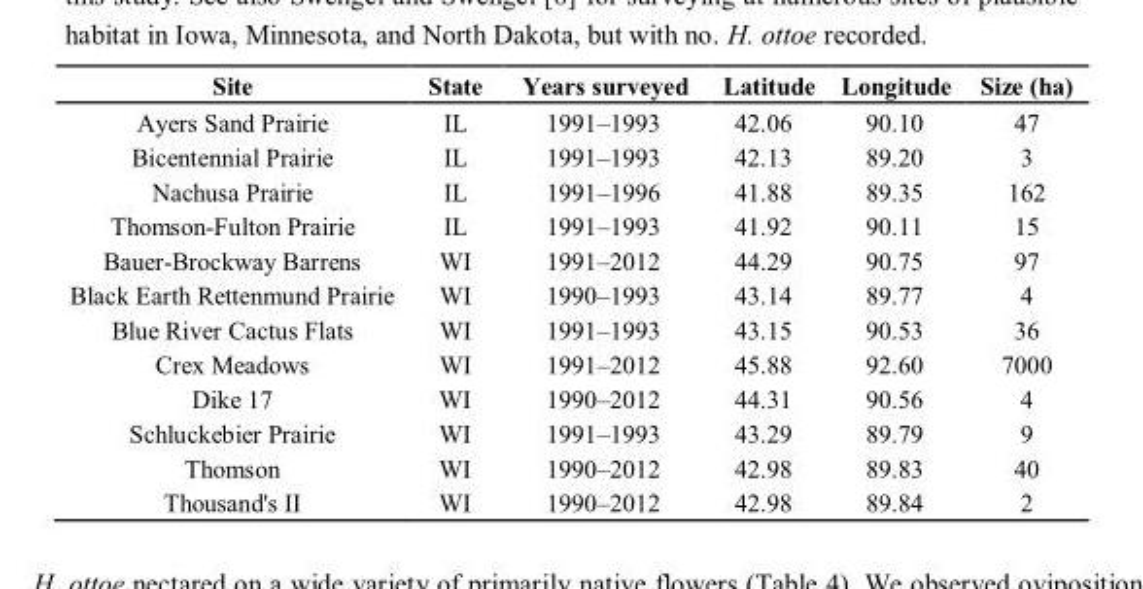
<table><thead><tr><td>Site</td><td>State</td><td>Years surveyed</td><td>Latitude</td><td>Longitude</td><td>Size (ha)</td></tr></thead><tbody><tr><td>Ayers Sand Prairie</td><td>IL</td><td>1991–1993</td><td>42.06</td><td>90.10</td><td>47</td></tr><tr><td>Bicentennial Prairie</td><td>IL</td><td>1991–1993</td><td>42.13</td><td>89.20</td><td>3</td></tr><tr><td>Nachusa Prairie</td><td>IL</td><td>1991–1996</td><td>41.88</td><td>89.35</td><td>162</td></tr><tr><td>Thomson-Fulton Prairie</td><td>IL</td><td>1991–1993</td><td>41.92</td><td>90.11</td><td>15</td></tr><tr><td>Bauer-Brockway Barrens</td><td>WI</td><td>1991–2012</td><td>44.29</td><td>90.75</td><td>97</td></tr><tr><td>Black Earth Rettenmund Prairie</td><td>WI</td><td>1990–1993</td><td>43.14</td><td>89.77</td><td>4</td></tr><tr><td>Blue River Cactus Flats</td><td>WI</td><td>1991–1993</td><td>43.15</td><td>90.53</td><td>36</td></tr><tr><td>Crex Meadows</td><td>WI</td><td>1991–2012</td><td>45.88</td><td>92.60</td><td>7000</td></tr><tr><td>Dike 17</td><td>WI</td><td>1990–2012</td><td>44.31</td><td>90.56</td><td>4</td></tr><tr><td>Schluckebier Prairie</td><td>WI</td><td>1991–1993</td><td>43.29</td><td>89.79</td><td>9</td></tr><tr><td>Thomson</td><td>WI</td><td>1990–2012</td><td>42.98</td><td>89.83</td><td>40</td></tr><tr><td>Thousand&#x27;s II</td><td>WI</td><td>1990–2012</td><td>42.98</td><td>89.84</td><td>2</td></tr></tbody></table>